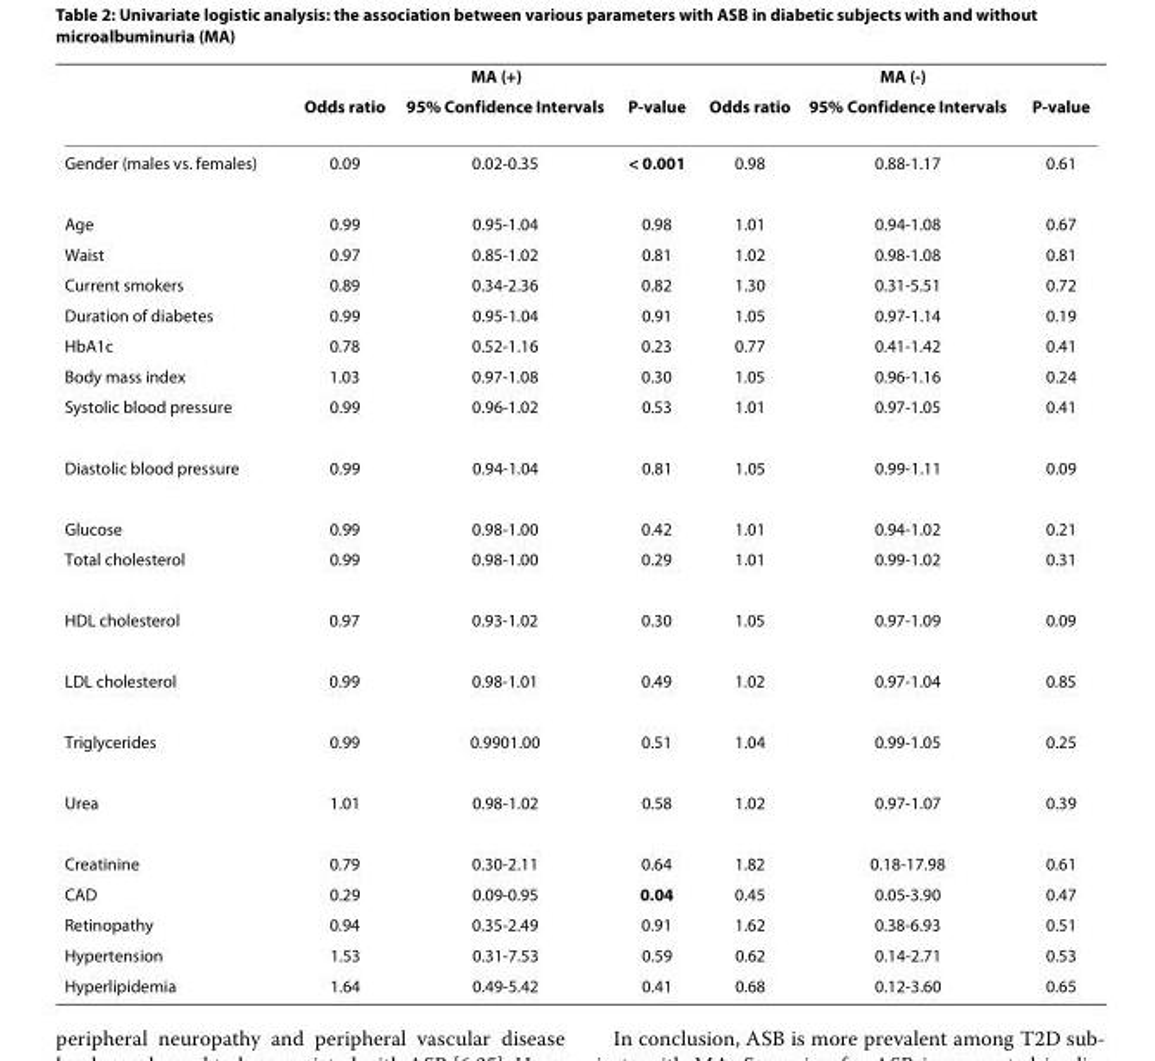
<table><thead><tr><td rowspan="2"></td><td colspan="3">MA (+)</td><td colspan="3">MA (-)</td></tr><tr><td>Odds ratio</td><td>95% Confidence Intervals</td><td>P-value</td><td>Odds ratio</td><td>95% Confidence Intervals</td><td>P-value</td></tr></thead><tbody><tr><td>Gender (males vs. females)</td><td>0.09</td><td>0.02-0.35</td><td>&lt; 0.001</td><td>0.98</td><td>0.88-1.17</td><td>0.61</td></tr><tr><td>Age</td><td>0.99</td><td>0.95-1.04</td><td>0.98</td><td>1.01</td><td>0.94-1.08</td><td>0.67</td></tr><tr><td>Waist</td><td>0.97</td><td>0.85-1.02</td><td>0.81</td><td>1.02</td><td>0.98-1.08</td><td>0.81</td></tr><tr><td>Current smokers</td><td>0.89</td><td>0.34-2.36</td><td>0.82</td><td>1.30</td><td>0.31-5.51</td><td>0.72</td></tr><tr><td>Duration of diabetes</td><td>0.99</td><td>0.95-1.04</td><td>0.91</td><td>1.05</td><td>0.97-1.14</td><td>0.19</td></tr><tr><td>HbA1c</td><td>0.78</td><td>0.52-1.16</td><td>0.23</td><td>0.77</td><td>0.41-1.42</td><td>0.41</td></tr><tr><td>Body mass index</td><td>1.03</td><td>0.97-1.08</td><td>0.30</td><td>1.05</td><td>0.96-1.16</td><td>0.24</td></tr><tr><td>Systolic blood pressure</td><td>0.99</td><td>0.96-1.02</td><td>0.53</td><td>1.01</td><td>0.97-1.05</td><td>0.41</td></tr><tr><td>Diastolic blood pressure</td><td>0.99</td><td>0.94-1.04</td><td>0.81</td><td>1.05</td><td>0.99-1.11</td><td>0.09</td></tr><tr><td>Glucose</td><td>0.99</td><td>0.98-1.00</td><td>0.42</td><td>1.01</td><td>0.94-1.02</td><td>0.21</td></tr><tr><td>Total cholesterol</td><td>0.99</td><td>0.98-1.00</td><td>0.29</td><td>1.01</td><td>0.99-1.02</td><td>0.31</td></tr><tr><td>HDL cholesterol</td><td>0.97</td><td>0.93-1.02</td><td>0.30</td><td>1.05</td><td>0.97-1.09</td><td>0.09</td></tr><tr><td>LDL cholesterol</td><td>0.99</td><td>0.98-1.01</td><td>0.49</td><td>1.02</td><td>0.97-1.04</td><td>0.85</td></tr><tr><td>Triglycerides</td><td>0.99</td><td>0.9901.00</td><td>0.51</td><td>1.04</td><td>0.99-1.05</td><td>0.25</td></tr><tr><td>Urea</td><td>1.01</td><td>0.98-1.02</td><td>0.58</td><td>1.02</td><td>0.97-1.07</td><td>0.39</td></tr><tr><td>Creatinine</td><td>0.79</td><td>0.30-2.11</td><td>0.64</td><td>1.82</td><td>0.18-17.98</td><td>0.61</td></tr><tr><td>CAD</td><td>0.29</td><td>0.09-0.95</td><td>0.04</td><td>0.45</td><td>0.05-3.90</td><td>0.47</td></tr><tr><td>Retinopathy</td><td>0.94</td><td>0.35-2.49</td><td>0.91</td><td>1.62</td><td>0.38-6.93</td><td>0.51</td></tr><tr><td>Hypertension</td><td>1.53</td><td>0.31-7.53</td><td>0.59</td><td>0.62</td><td>0.14-2.71</td><td>0.53</td></tr><tr><td>Hyperlipidemia</td><td>1.64</td><td>0.49-5.42</td><td>0.41</td><td>0.68</td><td>0.12-3.60</td><td>0.65</td></tr></tbody></table>